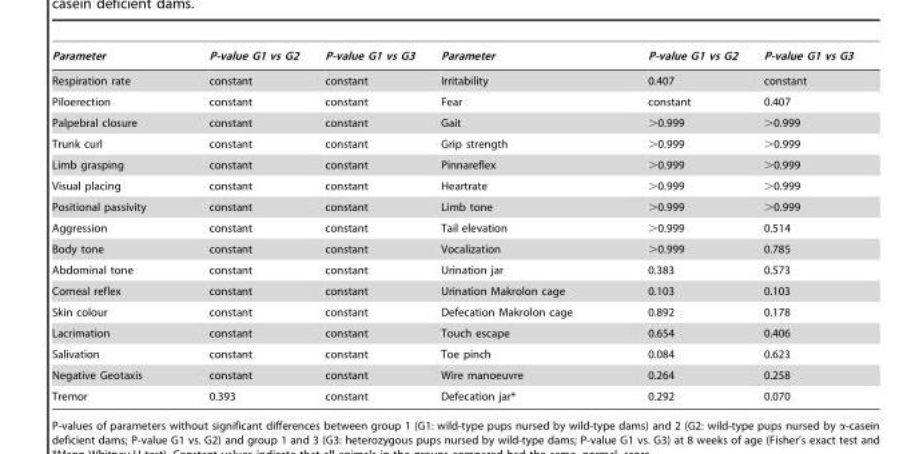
<table><thead><tr><td>Parameter</td><td>P-value G1 vs G2</td><td>P-value G1 vs G3</td><td>Parameter</td><td>P-value G1 vs G2</td><td>P-value G1 vs G3</td></tr></thead><tbody><tr><td>Respiration rate</td><td>constant</td><td>constant</td><td>Irritability</td><td>0.407</td><td>constant</td></tr><tr><td>Piloerection</td><td>constant</td><td>constant</td><td>Fear</td><td>constant</td><td>0.407</td></tr><tr><td>Palpebral closure</td><td>constant</td><td>constant</td><td>Gait</td><td>&gt;0.999</td><td>&gt;0.999</td></tr><tr><td>Trunk curl</td><td>constant</td><td>constant</td><td>Grip strength</td><td>&gt;0.999</td><td>&gt;0.999</td></tr><tr><td>Limb grasping</td><td>constant</td><td>constant</td><td>Pinnareflex</td><td>&gt;0.999</td><td>&gt;0.999</td></tr><tr><td>Visual placing</td><td>constant</td><td>constant</td><td>Heartrate</td><td>&gt;0.999</td><td>&gt;0.999</td></tr><tr><td>Positional passivity</td><td>constant</td><td>constant</td><td>Limb tone</td><td>&gt;0.999</td><td>&gt;0.999</td></tr><tr><td>Aggression</td><td>constant</td><td>constant</td><td>Tail elevation</td><td>&gt;0.999</td><td>0.514</td></tr><tr><td>Body tone</td><td>constant</td><td>constant</td><td>Vocalization</td><td>&gt;0.999</td><td>0.785</td></tr><tr><td>Abdominal tone</td><td>constant</td><td>constant</td><td>Urination jar</td><td>0.383</td><td>0.573</td></tr><tr><td>Corneal reflex</td><td>constant</td><td>constant</td><td>Urination Makrolon cage</td><td>0.103</td><td>0.103</td></tr><tr><td>Skin colour</td><td>constant</td><td>constant</td><td>Defecation Makrolon cage</td><td>0.892</td><td>0.178</td></tr><tr><td>Lacrimation</td><td>constant</td><td>constant</td><td>Touch escape</td><td>0.654</td><td>0.406</td></tr><tr><td>Salivation</td><td>constant</td><td>constant</td><td>Toe pinch</td><td>0.084</td><td>0.623</td></tr><tr><td>Negative Geotaxis</td><td>constant</td><td>constant</td><td>Wire manoeuvre</td><td>0.264</td><td>0.258</td></tr><tr><td>Tremor</td><td>0.393</td><td>constant</td><td>Defecation jar*</td><td>0.292</td><td>0.070</td></tr></tbody></table>